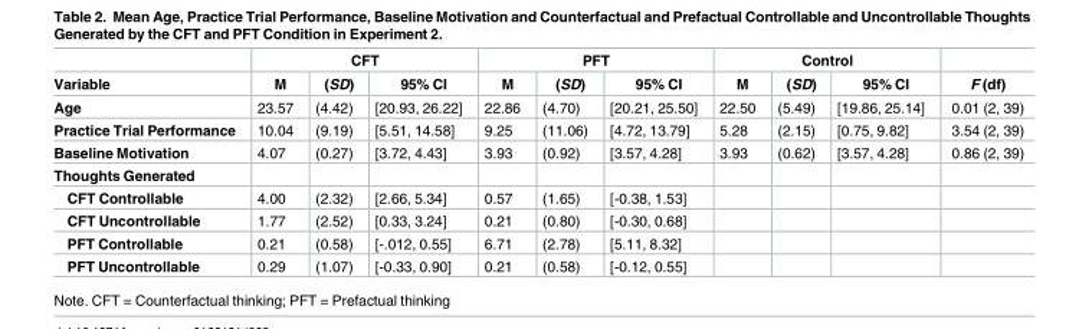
<table><thead><tr><td rowspan="2">Variable</td><td colspan="3">CFT</td><td colspan="3">PFT</td><td colspan="3">Control</td><td rowspan="2">F (df)</td></tr><tr><td>M</td><td>(SD)</td><td>95% CI</td><td>M</td><td>(SD)</td><td>95% CI</td><td>M</td><td>(SD)</td><td>95% CI</td></tr></thead><tbody><tr><td>Age</td><td>23.57</td><td>(4.42)</td><td>[20.93, 26.22]</td><td>22.86</td><td>(4.70)</td><td>[20.21, 25.50]</td><td>22.50</td><td>(5.49)</td><td>[19.86, 25.14]</td><td>0.01 (2, 39)</td></tr><tr><td>Practice Trial Performance</td><td>10.04</td><td>(9.19)</td><td>[5.51, 14.58]</td><td>9.25</td><td>(11.06)</td><td>[4.72, 13.79]</td><td>5.28</td><td>(2.15)</td><td>[0.75, 9.82]</td><td>3.54 (2, 39)</td></tr><tr><td>Baseline Motivation</td><td>4.07</td><td>(0.27)</td><td>[3.72, 4.43]</td><td>3.93</td><td>(0.92)</td><td>[3.57, 4.28]</td><td>3.93</td><td>(0.62)</td><td>[3.57, 4.28]</td><td>0.86 (2, 39)</td></tr><tr><td colspan="11">Thoughts Generated</td></tr><tr><td>CFT Controllable</td><td>4.00</td><td>(2.32)</td><td>[2.66, 5.34]</td><td>0.57</td><td>(1.65)</td><td>[-0.38, 1.53]</td><td></td><td></td><td></td><td></td></tr><tr><td>CFT Uncontrollable</td><td>1.77</td><td>(2.52)</td><td>[0.33, 3.24]</td><td>0.21</td><td>(0.80)</td><td>[-0.30, 0.68]</td><td></td><td></td><td></td><td></td></tr><tr><td>PFT Controllable</td><td>0.21</td><td>(0.58)</td><td>[-.012, 0.55]</td><td>6.71</td><td>(2.78)</td><td>[5.11, 8.32]</td><td></td><td></td><td></td><td></td></tr><tr><td>PFT Uncontrollable</td><td>0.29</td><td>(1.07)</td><td>[-0.33, 0.90]</td><td>0.21</td><td>(0.58)</td><td>[-0.12, 0.55]</td><td></td><td></td><td></td><td></td></tr></tbody></table>